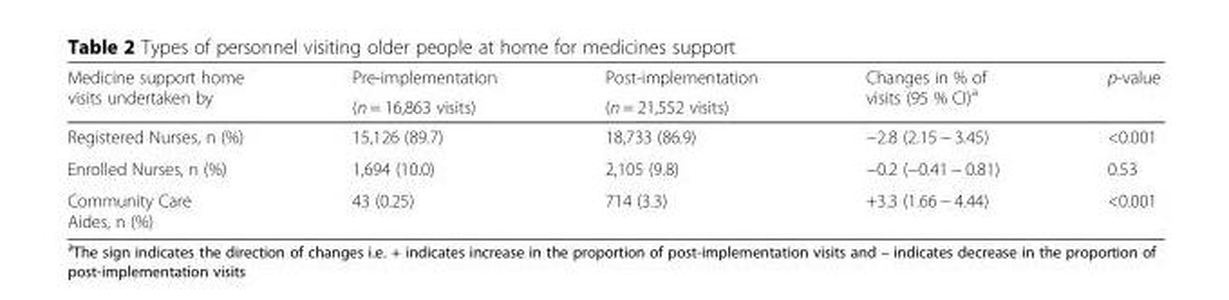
<table><thead><tr><td rowspan="2">Medicine support home visits undertaken by</td><td rowspan="2">Pre-implementation (n = 16,863 visits)</td><td rowspan="2">Post-implementation (n = 21,552 visits)</td><td rowspan="2">Changes in % of visits (95 % CI)<sup>a</sup></td><td rowspan="2">p-value</td></tr><tr></tr></thead><tbody><tr><td>Registered Nurses, n (%)</td><td>15,126 (89.7)</td><td>18,733 (86.9)</td><td>−2.8 (2.15 − 3.45)</td><td>&lt;0.001</td></tr><tr><td>Enrolled Nurses, n (%)</td><td>1,694 (10.0)</td><td>2,105 (9.8)</td><td>−0.2 (−0.41 − 0.81)</td><td>0.53</td></tr><tr><td>Community Care Aides, n (%)</td><td>43 (0.25)</td><td>714 (3.3)</td><td>+3.3 (1.66 − 4.44)</td><td>&lt;0.001</td></tr></tbody></table>